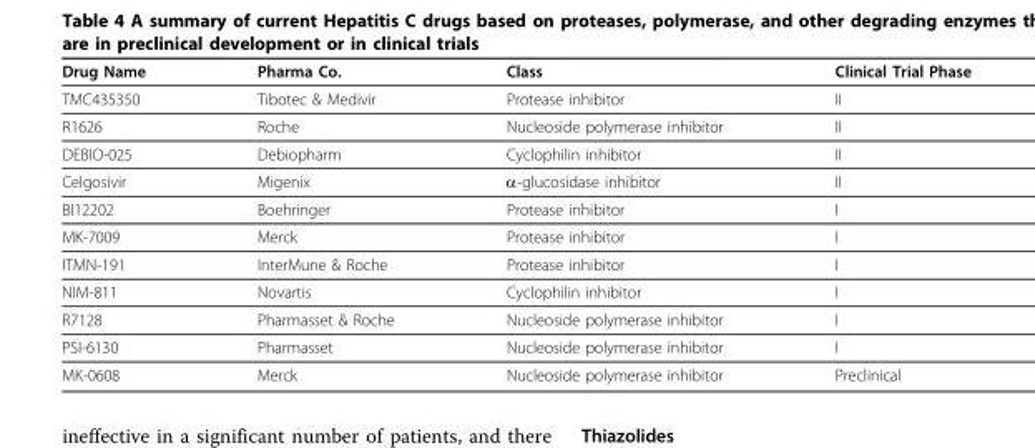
<table><thead><tr><td>Drug Name</td><td>Pharma Co.</td><td>Class</td><td>Clinical Trial Phase</td></tr></thead><tbody><tr><td>TMC435350</td><td>Tibotec &amp; Medivir</td><td>Protease inhibitor</td><td>II</td></tr><tr><td>R1626</td><td>Roche</td><td>Nucleoside polymerase inhibitor</td><td>II</td></tr><tr><td>DEBIO-025</td><td>Debiopharm</td><td>Cyclophilin inhibitor</td><td>II</td></tr><tr><td>Celgosivir</td><td>Migenix</td><td>α-glucosidase inhibitor</td><td>II</td></tr><tr><td>BI12202</td><td>Boehringer</td><td>Protease inhibitor</td><td>I</td></tr><tr><td>MK-7009</td><td>Merck</td><td>Protease inhibitor</td><td>I</td></tr><tr><td>ITMN-191</td><td>InterMune &amp; Roche</td><td>Protease inhibitor</td><td>I</td></tr><tr><td>NIM-811</td><td>Novartis</td><td>Cyclophilin inhibitor</td><td>I</td></tr><tr><td>R7128</td><td>Pharmasset &amp; Roche</td><td>Nucleoside polymerase inhibitor</td><td>I</td></tr><tr><td>PSI-6130</td><td>Pharmasset</td><td>Nucleoside polymerase inhibitor</td><td>I</td></tr><tr><td>MK-0608</td><td>Merck</td><td>Nucleoside polymerase inhibitor</td><td>Preclinical</td></tr></tbody></table>